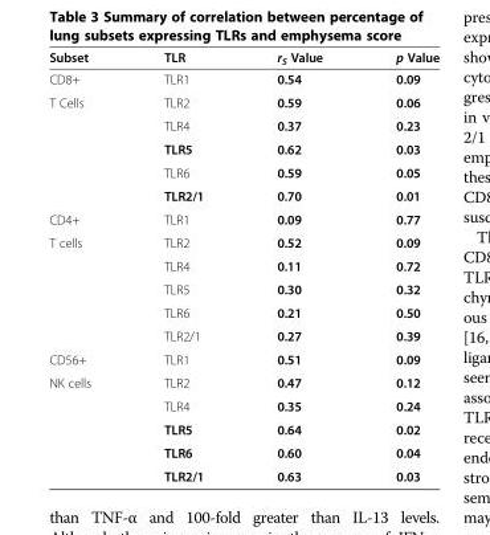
<table><thead><tr><td>Subset</td><td>TLR</td><td>r<sub>S</sub> Value</td><td>p Value</td></tr></thead><tbody><tr><td>CD8+</td><td>TLR1</td><td>0.54</td><td>0.09</td></tr><tr><td rowspan="5">T Cells</td><td>TLR2</td><td>0.59</td><td>0.06</td></tr><tr><td>TLR4</td><td>0.37</td><td>0.23</td></tr><tr><td>TLR5</td><td>0.62</td><td>0.03</td></tr><tr><td>TLR6</td><td>0.59</td><td>0.05</td></tr><tr><td>TLR2/1</td><td>0.70</td><td>0.01</td></tr><tr><td>CD4+</td><td>TLR1</td><td>0.09</td><td>0.77</td></tr><tr><td rowspan="5">T cells</td><td>TLR2</td><td>0.52</td><td>0.09</td></tr><tr><td>TLR4</td><td>0.11</td><td>0.72</td></tr><tr><td>TLR5</td><td>0.30</td><td>0.32</td></tr><tr><td>TLR6</td><td>0.21</td><td>0.50</td></tr><tr><td>TLR2/1</td><td>0.27</td><td>0.39</td></tr><tr><td>CD56+</td><td>TLR1</td><td>0.51</td><td>0.09</td></tr><tr><td rowspan="5">NK cells</td><td>TLR2</td><td>0.47</td><td>0.12</td></tr><tr><td>TLR4</td><td>0.35</td><td>0.24</td></tr><tr><td>TLR5</td><td>0.64</td><td>0.02</td></tr><tr><td>TLR6</td><td>0.60</td><td>0.04</td></tr><tr><td>TLR2/1</td><td>0.63</td><td>0.03</td></tr></tbody></table>